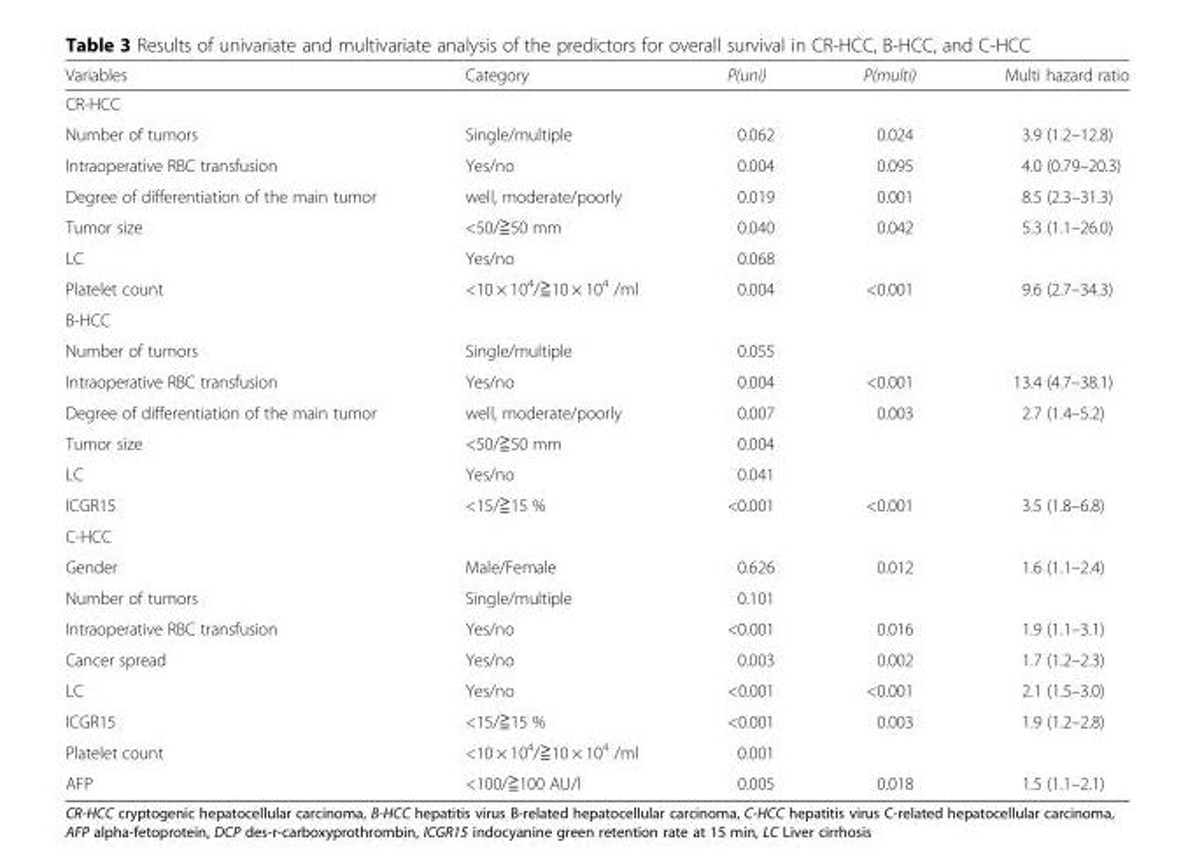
<table><thead><tr><td>Variables</td><td>Category</td><td>P(uni)</td><td>P(multi)</td><td>Multi hazard ratio</td></tr></thead><tbody><tr><td colspan="5">CR-HCC</td></tr><tr><td>Number of tumors</td><td>Single/multiple</td><td>0.062</td><td>0.024</td><td>3.9 (1.2–12.8)</td></tr><tr><td>Intraoperative RBC transfusion</td><td>Yes/no</td><td>0.004</td><td>0.095</td><td>4.0 (0.79–20.3)</td></tr><tr><td>Degree of differentiation of the main tumor</td><td>well, moderate/poorly</td><td>0.019</td><td>0.001</td><td>8.5 (2.3–31.3)</td></tr><tr><td>Tumor size</td><td>&lt;50/≧50 mm</td><td>0.040</td><td>0.042</td><td>5.3 (1.1–26.0)</td></tr><tr><td>LC</td><td>Yes/no</td><td>0.068</td><td></td><td></td></tr><tr><td>Platelet count</td><td>&lt;10 × 10<sup>4</sup>/≧10 × 10<sup>4</sup> /ml</td><td>0.004</td><td>&lt;0.001</td><td>9.6 (2.7–34.3)</td></tr><tr><td colspan="5">B-HCC</td></tr><tr><td>Number of tumors</td><td>Single/multiple</td><td>0.055</td><td></td><td></td></tr><tr><td>Intraoperative RBC transfusion</td><td>Yes/no</td><td>0.004</td><td>&lt;0.001</td><td>13.4 (4.7–38.1)</td></tr><tr><td>Degree of differentiation of the main tumor</td><td>well, moderate/poorly</td><td>0.007</td><td>0.003</td><td>2.7 (1.4–5.2)</td></tr><tr><td>Tumor size</td><td>&lt;50/≧50 mm</td><td>0.004</td><td></td><td></td></tr><tr><td>LC</td><td>Yes/no</td><td>0.041</td><td></td><td></td></tr><tr><td>ICGR15</td><td>&lt;15/≧15 %</td><td>&lt;0.001</td><td>&lt;0.001</td><td>3.5 (1.8–6.8)</td></tr><tr><td colspan="5">C-HCC</td></tr><tr><td>Gender</td><td>Male/Female</td><td>0.626</td><td>0.012</td><td>1.6 (1.1–2.4)</td></tr><tr><td>Number of tumors</td><td>Single/multiple</td><td>0.101</td><td></td><td></td></tr><tr><td>Intraoperative RBC transfusion</td><td>Yes/no</td><td>&lt;0.001</td><td>0.016</td><td>1.9 (1.1–3.1)</td></tr><tr><td>Cancer spread</td><td>Yes/no</td><td>0.003</td><td>0.002</td><td>1.7 (1.2–2.3)</td></tr><tr><td>LC</td><td>Yes/no</td><td>&lt;0.001</td><td>&lt;0.001</td><td>2.1 (1.5–3.0)</td></tr><tr><td>ICGR15</td><td>&lt;15/≧15 %</td><td>&lt;0.001</td><td>0.003</td><td>1.9 (1.2–2.8)</td></tr><tr><td>Platelet count</td><td>&lt;10 × 10<sup>4</sup>/≧10 × 10<sup>4</sup> /ml</td><td>0.001</td><td></td><td></td></tr><tr><td>AFP</td><td>&lt;100/≧100 AU/l</td><td>0.005</td><td>0.018</td><td>1.5 (1.1–2.1)</td></tr></tbody></table>